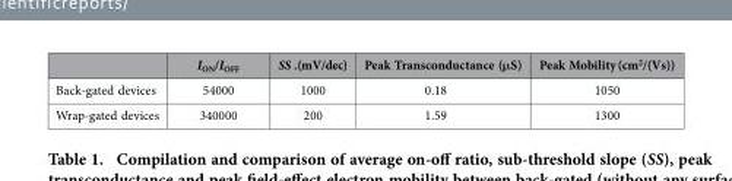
<table><thead><tr><td></td><td>I<sub>ON</sub>/I<sub>OFF</sub></td><td>SS .(mV/dec)</td><td>Peak Transconductance (μS)</td><td>Peak Mobility (cm<sup>2</sup>/(Vs))</td></tr></thead><tbody><tr><td>Back-gated devices</td><td>54000</td><td>1000</td><td>0.18</td><td>1050</td></tr><tr><td>Wrap-gated devices</td><td>340000</td><td>200</td><td>1.59</td><td>1300</td></tr></tbody></table>